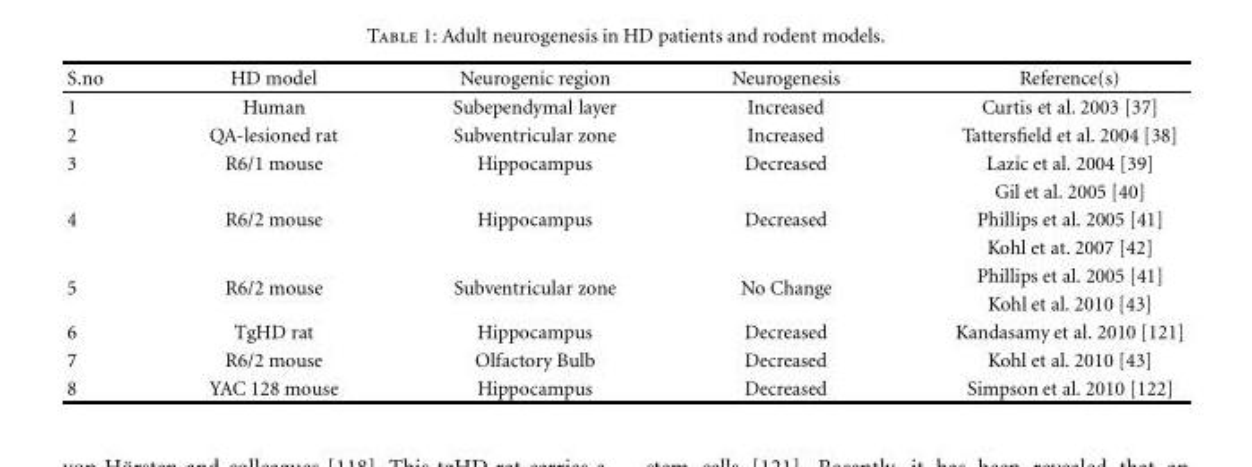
<table><thead><tr><td>S.no</td><td>HD model</td><td>Neurogenic region</td><td>Neurogenesis</td><td>Reference(s)</td></tr></thead><tbody><tr><td>1</td><td>Human</td><td>Subependymal layer</td><td>Increased</td><td>Curtis et al. 2003 [37]</td></tr><tr><td>2</td><td>QA-lesioned rat</td><td>Subventricular zone</td><td>Increased</td><td>Tattersfield et al. 2004 [38]</td></tr><tr><td rowspan="2">3</td><td>R6/1 mouse</td><td>Hippocampus</td><td>Decreased</td><td>Lazic et al. 2004 [39]</td></tr><tr><td></td><td></td><td></td><td>Gil et al. 2005 [40]</td></tr><tr><td rowspan="2">4</td><td>R6/2 mouse</td><td>Hippocampus</td><td>Decreased</td><td>Phillips et al. 2005 [41]</td></tr><tr><td></td><td></td><td></td><td>Kohl et at. 2007 [42]</td></tr><tr><td rowspan="2">5</td><td rowspan="2">R6/2 mouse</td><td rowspan="2">Subventricular zone</td><td rowspan="2">No Change</td><td>Phillips et al. 2005 [41]</td></tr><tr><td>Kohl et al. 2010 [43]</td></tr><tr><td>6</td><td>TgHD rat</td><td>Hippocampus</td><td>Decreased</td><td>Kandasamy et al. 2010 [121]</td></tr><tr><td>7</td><td>R6/2 mouse</td><td>Olfactory Bulb</td><td>Decreased</td><td>Kohl et al. 2010 [43]</td></tr><tr><td>8</td><td>YAC 128 mouse</td><td>Hippocampus</td><td>Decreased</td><td>Simpson et al. 2010 [122]</td></tr></tbody></table>